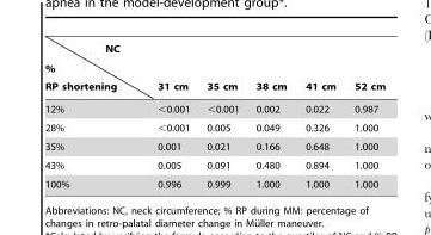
<table><thead><tr><td>NC % RP shortening</td><td>31 cm</td><td>35 cm</td><td>38 cm</td><td>41 cm</td><td>52 cm</td></tr></thead><tbody><tr><td>12%</td><td>&lt;0.001</td><td>&lt;0.001</td><td>0.002</td><td>0.022</td><td>0.987</td></tr><tr><td>28%</td><td>&lt;0.001</td><td>0.005</td><td>0.049</td><td>0.326</td><td>1.000</td></tr><tr><td>35%</td><td>0.001</td><td>0.021</td><td>0.166</td><td>0.648</td><td>1.000</td></tr><tr><td>43%</td><td>0.005</td><td>0.091</td><td>0.480</td><td>0.894</td><td>1.000</td></tr><tr><td>100%</td><td>0.996</td><td>0.999</td><td>1.000</td><td>1.000</td><td>1.000</td></tr></tbody></table>